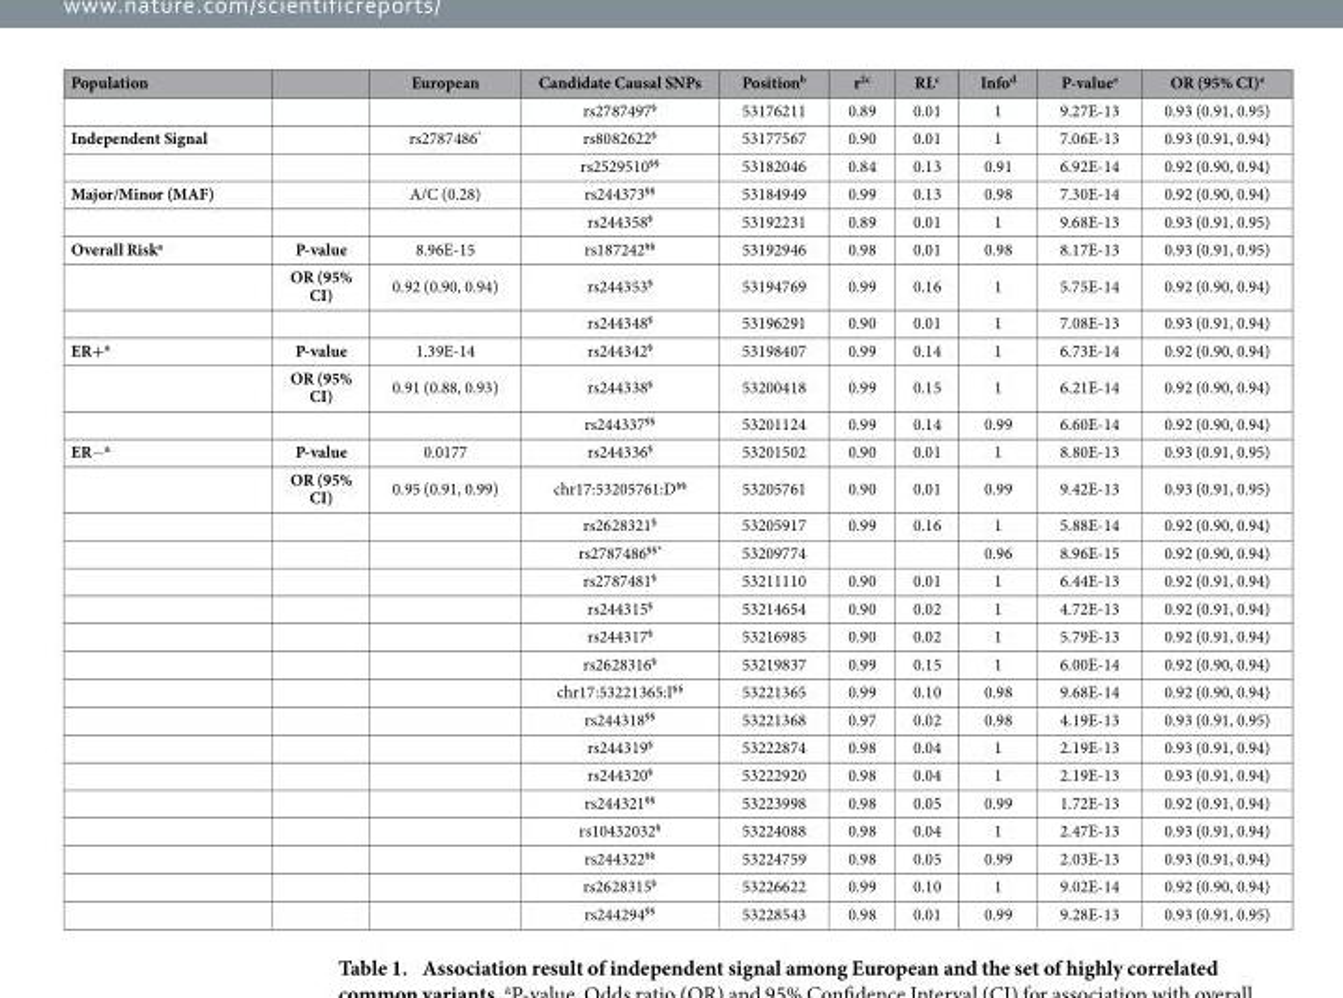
<table><thead><tr><td>Population</td><td></td><td>European</td><td>Candidate Causal SNPs</td><td>Position<sup>b</sup></td><td>r<sup>2c</sup></td><td>RL<sup>c</sup></td><td>Info<sup>d</sup></td><td>P-value<sup>e</sup></td><td>OR (95% CI)<sup>e</sup></td></tr></thead><tbody><tr><td></td><td></td><td></td><td>rs2787497<sup>§</sup></td><td>53176211</td><td>0.89</td><td>0.01</td><td>1</td><td>9.27E-13</td><td>0.93 (0.91, 0.95)</td></tr><tr><td rowspan="2">Independent Signal</td><td></td><td>rs2787486*</td><td>rs8082622<sup>§</sup></td><td>53177567</td><td>0.90</td><td>0.01</td><td>1</td><td>7.06E-13</td><td>0.93 (0.91, 0.94)</td></tr><tr><td></td><td></td><td>rs2529510<sup>§§</sup></td><td>53182046</td><td>0.84</td><td>0.13</td><td>0.91</td><td>6.92E-14</td><td>0.92 (0.90, 0.94)</td></tr><tr><td rowspan="2">Major/Minor (MAF)</td><td></td><td>A/C (0.28)</td><td>rs244373<sup>§§</sup></td><td>53184949</td><td>0.99</td><td>0.13</td><td>0.98</td><td>7.30E-14</td><td>0.92 (0.90, 0.94)</td></tr><tr><td></td><td></td><td>rs244358<sup>§</sup></td><td>53192231</td><td>0.89</td><td>0.01</td><td>1</td><td>9.68E-13</td><td>0.93 (0.91, 0.95)</td></tr><tr><td rowspan="3">Overall Riska</td><td>P-value</td><td>8.96E-15</td><td>rs187242<sup>§§</sup></td><td>53192946</td><td>0.98</td><td>0.01</td><td>0.98</td><td>8.17E-13</td><td>0.93 (0.91, 0.95)</td></tr><tr><td>OR (95% CI)</td><td>0.92 (0.90, 0.94)</td><td>rs244353<sup>§</sup></td><td>53194769</td><td>0.99</td><td>0.16</td><td>1</td><td>5.75E-14</td><td>0.92 (0.90, 0.94)</td></tr><tr><td></td><td></td><td>rs244348<sup>§</sup></td><td>53196291</td><td>0.90</td><td>0.01</td><td>1</td><td>7.08E-13</td><td>0.93 (0.91, 0.94)</td></tr><tr><td rowspan="3">ER+a</td><td>P-value</td><td>1.39E-14</td><td>rs244342<sup>§</sup></td><td>53198407</td><td>0.99</td><td>0.14</td><td>1</td><td>6.73E-14</td><td>0.92 (0.90, 0.94)</td></tr><tr><td>OR (95% CI)</td><td>0.91 (0.88, 0.93)</td><td>rs244338<sup>§</sup></td><td>53200418</td><td>0.99</td><td>0.15</td><td>1</td><td>6.21E-14</td><td>0.92 (0.90, 0.94)</td></tr><tr><td></td><td></td><td>rs244337<sup>§§</sup></td><td>53201124</td><td>0.99</td><td>0.14</td><td>0.99</td><td>6.60E-14</td><td>0.92 (0.90, 0.94)</td></tr><tr><td rowspan="17">ER−a</td><td>P-value</td><td>0.0177</td><td>rs244336<sup>§</sup></td><td>53201502</td><td>0.90</td><td>0.01</td><td>1</td><td>8.80E-13</td><td>0.93 (0.91, 0.95)</td></tr><tr><td>OR (95% CI)</td><td>0.95 (0.91, 0.99)</td><td>chr17:53205761:D<sup>§§</sup></td><td>53205761</td><td>0.90</td><td>0.01</td><td>0.99</td><td>9.42E-13</td><td>0.93 (0.91, 0.95)</td></tr><tr><td></td><td></td><td>rs2628321<sup>§</sup></td><td>53205917</td><td>0.99</td><td>0.16</td><td>1</td><td>5.88E-14</td><td>0.92 (0.90, 0.94)</td></tr><tr><td></td><td></td><td>rs2787486<sup>§§</sup>*</td><td>53209774</td><td></td><td></td><td>0.96</td><td>8.96E-15</td><td>0.92 (0.90, 0.94)</td></tr><tr><td></td><td></td><td>rs2787481<sup>§</sup></td><td>53211110</td><td>0.90</td><td>0.01</td><td>1</td><td>6.44E-13</td><td>0.92 (0.91, 0.94)</td></tr><tr><td></td><td></td><td>rs244315<sup>§</sup></td><td>53214654</td><td>0.90</td><td>0.02</td><td>1</td><td>4.72E-13</td><td>0.92 (0.91, 0.94)</td></tr><tr><td></td><td></td><td>rs244317<sup>§</sup></td><td>53216985</td><td>0.90</td><td>0.02</td><td>1</td><td>5.79E-13</td><td>0.92 (0.91, 0.94)</td></tr><tr><td></td><td></td><td>rs2628316<sup>§</sup></td><td>53219837</td><td>0.99</td><td>0.15</td><td>1</td><td>6.00E-14</td><td>0.92 (0.90, 0.94)</td></tr><tr><td></td><td></td><td>chr17:53221365:I<sup>§§</sup></td><td>53221365</td><td>0.99</td><td>0.10</td><td>0.98</td><td>9.68E-14</td><td>0.92 (0.90, 0.94)</td></tr><tr><td></td><td></td><td>rs244318<sup>§§</sup></td><td>53221368</td><td>0.97</td><td>0.02</td><td>0.98</td><td>4.19E-13</td><td>0.93 (0.91, 0.95)</td></tr><tr><td></td><td></td><td>rs244319<sup>§</sup></td><td>53222874</td><td>0.98</td><td>0.04</td><td>1</td><td>2.19E-13</td><td>0.93 (0.91, 0.94)</td></tr><tr><td></td><td></td><td>rs244320<sup>§</sup></td><td>53222920</td><td>0.98</td><td>0.04</td><td>1</td><td>2.19E-13</td><td>0.93 (0.91, 0.94)</td></tr><tr><td></td><td></td><td>rs244321<sup>§§</sup></td><td>53223998</td><td>0.98</td><td>0.05</td><td>0.99</td><td>1.72E-13</td><td>0.92 (0.91, 0.94)</td></tr><tr><td></td><td></td><td>rs10432032<sup>§</sup></td><td>53224088</td><td>0.98</td><td>0.04</td><td>1</td><td>2.47E-13</td><td>0.93 (0.91, 0.94)</td></tr><tr><td></td><td></td><td>rs244322<sup>§§</sup></td><td>53224759</td><td>0.98</td><td>0.05</td><td>0.99</td><td>2.03E-13</td><td>0.93 (0.91, 0.94)</td></tr><tr><td></td><td></td><td>rs2628315<sup>§</sup></td><td>53226622</td><td>0.99</td><td>0.10</td><td>1</td><td>9.02E-14</td><td>0.92 (0.90, 0.94)</td></tr><tr><td></td><td></td><td>rs244294<sup>§§</sup></td><td>53228543</td><td>0.98</td><td>0.01</td><td>0.99</td><td>9.28E-13</td><td>0.93 (0.91, 0.95)</td></tr></tbody></table>